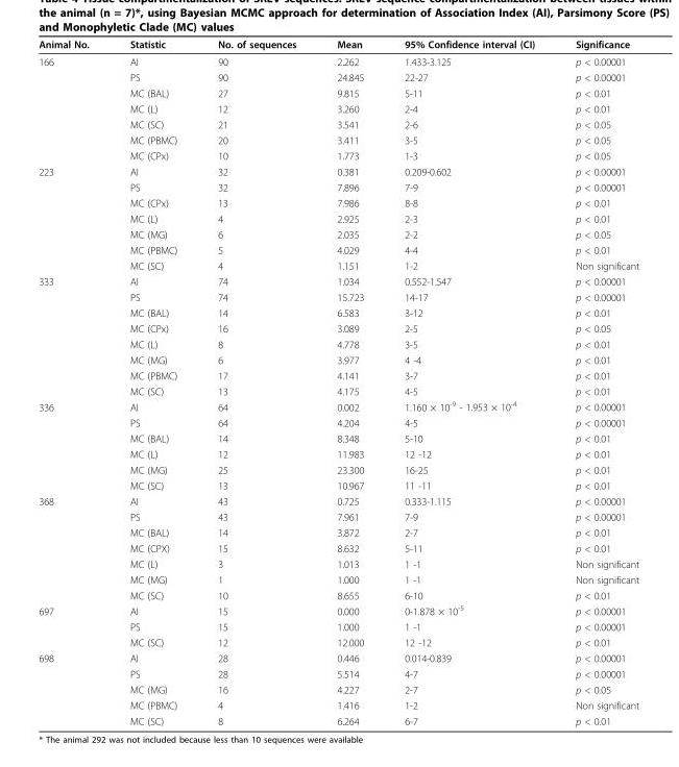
<table><thead><tr><td>Animal No.</td><td>Statistic</td><td>No. of sequences</td><td>Mean</td><td>95% Confidence interval (CI)</td><td>Significance</td></tr></thead><tbody><tr><td rowspan="7">166</td><td>AI</td><td>90</td><td>2.262</td><td>1.433-3.125</td><td>p &lt; 0.00001</td></tr><tr><td>PS</td><td>90</td><td>24.845</td><td>22-27</td><td>p &lt; 0.00001</td></tr><tr><td>MC (BAL)</td><td>27</td><td>9.815</td><td>5-11</td><td>p &lt; 0.01</td></tr><tr><td>MC (L)</td><td>12</td><td>3.260</td><td>2-4</td><td>p &lt; 0.01</td></tr><tr><td>MC (SC)</td><td>21</td><td>3.541</td><td>2-6</td><td>p &lt; 0.05</td></tr><tr><td>MC (PBMC)</td><td>20</td><td>3.411</td><td>3-5</td><td>p &lt; 0.05</td></tr><tr><td>MC (CPx)</td><td>10</td><td>1.773</td><td>1-3</td><td>p &lt; 0.05</td></tr><tr><td rowspan="7">223</td><td>AI</td><td>32</td><td>0.381</td><td>0.209-0.602</td><td>p &lt; 0.00001</td></tr><tr><td>PS</td><td>32</td><td>7.896</td><td>7-9</td><td>p &lt; 0.00001</td></tr><tr><td>MC (CPx)</td><td>13</td><td>7.986</td><td>8-8</td><td>p &lt; 0.01</td></tr><tr><td>MC (L)</td><td>4</td><td>2.925</td><td>2-3</td><td>p &lt; 0.01</td></tr><tr><td>MC (MG)</td><td>6</td><td>2.035</td><td>2-2</td><td>p &lt; 0.05</td></tr><tr><td>MC (PBMC)</td><td>5</td><td>4.029</td><td>4-4</td><td>p &lt; 0.01</td></tr><tr><td>MC (SC)</td><td>4</td><td>1.151</td><td>1-2</td><td>Non significant</td></tr><tr><td rowspan="8">333</td><td>AI</td><td>74</td><td>1.034</td><td>0.552-1.547</td><td>p &lt; 0.00001</td></tr><tr><td>PS</td><td>74</td><td>15.723</td><td>14-17</td><td>p &lt; 0.00001</td></tr><tr><td>MC (BAL)</td><td>14</td><td>6.583</td><td>3-12</td><td>p &lt; 0.01</td></tr><tr><td>MC (CPx)</td><td>16</td><td>3.089</td><td>2-5</td><td>p &lt; 0.05</td></tr><tr><td>MC (L)</td><td>8</td><td>4.778</td><td>3-5</td><td>p &lt; 0.01</td></tr><tr><td>MC (MG)</td><td>6</td><td>3.977</td><td>4 -4</td><td>p &lt; 0.01</td></tr><tr><td>MC (PBMC)</td><td>17</td><td>4.141</td><td>3-7</td><td>p &lt; 0.01</td></tr><tr><td>MC (SC)</td><td>13</td><td>4.175</td><td>4-5</td><td>p &lt; 0.01</td></tr><tr><td rowspan="6">336</td><td>AI</td><td>64</td><td>0.002</td><td>1.160 × 10<sup>-9</sup> - 1.953 × 10<sup>-4</sup></td><td>p &lt; 0.00001</td></tr><tr><td>PS</td><td>64</td><td>4.204</td><td>4-5</td><td>p &lt; 0.00001</td></tr><tr><td>MC (BAL)</td><td>14</td><td>8.348</td><td>5-10</td><td>p &lt; 0.01</td></tr><tr><td>MC (L)</td><td>12</td><td>11.983</td><td>12 -12</td><td>p &lt; 0.01</td></tr><tr><td>MC (MG)</td><td>25</td><td>23.300</td><td>16-25</td><td>p &lt; 0.01</td></tr><tr><td>MC (SC)</td><td>13</td><td>10.967</td><td>11 -11</td><td>p &lt; 0.01</td></tr><tr><td rowspan="7">368</td><td>AI</td><td>43</td><td>0.725</td><td>0.333-1.115</td><td>p &lt; 0.00001</td></tr><tr><td>PS</td><td>43</td><td>7.961</td><td>7-9</td><td>p &lt; 0.00001</td></tr><tr><td>MC (BAL)</td><td>14</td><td>3.872</td><td>2-7</td><td>p &lt; 0.01</td></tr><tr><td>MC (CPX)</td><td>15</td><td>8.632</td><td>5-11</td><td>p &lt; 0.01</td></tr><tr><td>MC (L)</td><td>3</td><td>1.013</td><td>1 -1</td><td>Non significant</td></tr><tr><td>MC (MG)</td><td>1</td><td>1.000</td><td>1 -1</td><td>Non significant</td></tr><tr><td>MC (SC)</td><td>10</td><td>8.655</td><td>6-10</td><td>p &lt; 0.01</td></tr><tr><td rowspan="3">697</td><td>AI</td><td>15</td><td>0.000</td><td>0-1.878 × 10<sup>-5</sup></td><td>p &lt; 0.00001</td></tr><tr><td>PS</td><td>15</td><td>1.000</td><td>1 -1</td><td>p &lt; 0.00001</td></tr><tr><td>MC (SC)</td><td>12</td><td>12.000</td><td>12 -12</td><td>p &lt; 0.01</td></tr><tr><td rowspan="5">698</td><td>AI</td><td>28</td><td>0.446</td><td>0.014-0.839</td><td>p &lt; 0.00001</td></tr><tr><td>PS</td><td>28</td><td>5.514</td><td>4-7</td><td>p &lt; 0.00001</td></tr><tr><td>MC (MG)</td><td>16</td><td>4.227</td><td>2-7</td><td>p &lt; 0.05</td></tr><tr><td>MC (PBMC)</td><td>4</td><td>1.416</td><td>1-2</td><td>Non significant</td></tr><tr><td>MC (SC)</td><td>8</td><td>6.264</td><td>6-7</td><td>p &lt; 0.01</td></tr></tbody></table>